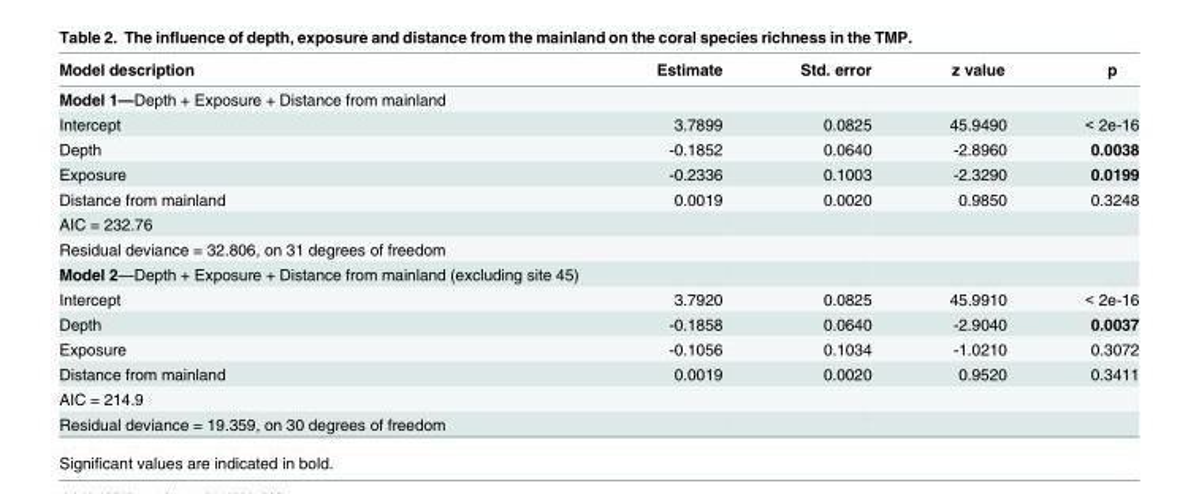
<table><thead><tr><td>Model description</td><td>Estimate</td><td>Std. error</td><td>z value</td><td>p</td></tr></thead><tbody><tr><td colspan="5">Model 1—Depth + Exposure + Distance from mainland</td></tr><tr><td>Intercept</td><td>3.7899</td><td>0.0825</td><td>45.9490</td><td>&lt; 2e-16</td></tr><tr><td>Depth</td><td>-0.1852</td><td>0.0640</td><td>-2.8960</td><td>0.0038</td></tr><tr><td>Exposure</td><td>-0.2336</td><td>0.1003</td><td>-2.3290</td><td>0.0199</td></tr><tr><td>Distance from mainland</td><td>0.0019</td><td>0.0020</td><td>0.9850</td><td>0.3248</td></tr><tr><td colspan="5">AIC = 232.76</td></tr><tr><td colspan="5">Residual deviance = 32.806, on 31 degrees of freedom</td></tr><tr><td colspan="5">Model 2—Depth + Exposure + Distance from mainland (excluding site 45)</td></tr><tr><td>Intercept</td><td>3.7920</td><td>0.0825</td><td>45.9910</td><td>&lt; 2e-16</td></tr><tr><td>Depth</td><td>-0.1858</td><td>0.0640</td><td>-2.9040</td><td>0.0037</td></tr><tr><td>Exposure</td><td>-0.1056</td><td>0.1034</td><td>-1.0210</td><td>0.3072</td></tr><tr><td>Distance from mainland</td><td>0.0019</td><td>0.0020</td><td>0.9520</td><td>0.3411</td></tr><tr><td colspan="5">AIC = 214.9</td></tr><tr><td>Residual deviance = 19.359, on 30 degrees of freedom</td><td></td><td></td><td></td><td></td></tr></tbody></table>